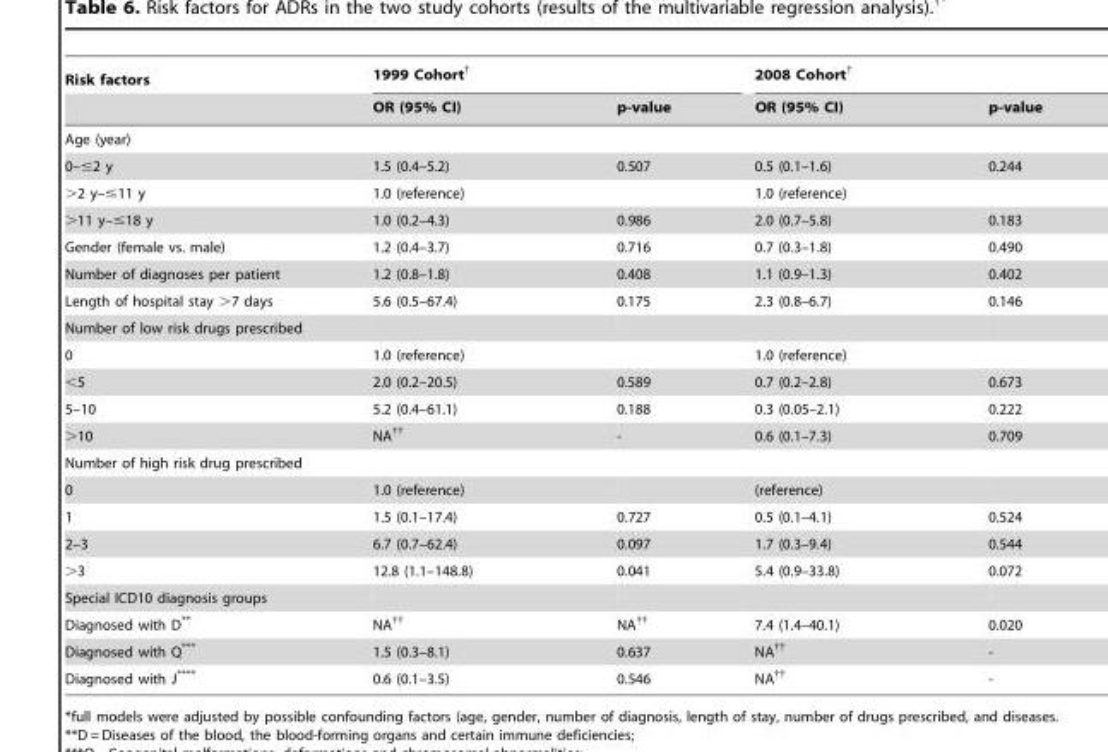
<table><thead><tr><td rowspan="2">Risk factors</td><td colspan="2">1999 Cohort†</td><td colspan="2">2008 Cohort†</td></tr><tr><td>OR (95% CI)</td><td>p-value</td><td>OR (95% CI)</td><td>p-value</td></tr></thead><tbody><tr><td colspan="5">Age (year)</td></tr><tr><td>0–≤2 y</td><td>1.5 (0.4–5.2)</td><td>0.507</td><td>0.5 (0.1–1.6)</td><td>0.244</td></tr><tr><td>&gt;2 y–≤11 y</td><td>1.0 (reference)</td><td></td><td>1.0 (reference)</td><td></td></tr><tr><td>&gt;11 y–≤18 y</td><td>1.0 (0.2–4.3)</td><td>0.986</td><td>2.0 (0.7–5.8)</td><td>0.183</td></tr><tr><td>Gender (female vs. male)</td><td>1.2 (0.4–3.7)</td><td>0.716</td><td>0.7 (0.3–1.8)</td><td>0.490</td></tr><tr><td>Number of diagnoses per patient</td><td>1.2 (0.8–1.8)</td><td>0.408</td><td>1.1 (0.9–1.3)</td><td>0.402</td></tr><tr><td>Length of hospital stay &gt;7 days</td><td>5.6 (0.5–67.4)</td><td>0.175</td><td>2.3 (0.8–6.7)</td><td>0.146</td></tr><tr><td colspan="5">Number of low risk drugs prescribed</td></tr><tr><td>0</td><td>1.0 (reference)</td><td></td><td>1.0 (reference)</td><td></td></tr><tr><td>&lt;5</td><td>2.0 (0.2–20.5)</td><td>0.589</td><td>0.7 (0.2–2.8)</td><td>0.673</td></tr><tr><td>5–10</td><td>5.2 (0.4–61.1)</td><td>0.188</td><td>0.3 (0.05–2.1)</td><td>0.222</td></tr><tr><td>&gt;10</td><td>NA††</td><td>-</td><td>0.6 (0.1–7.3)</td><td>0.709</td></tr><tr><td colspan="5">Number of high risk drug prescribed</td></tr><tr><td>0</td><td>1.0 (reference)</td><td></td><td>(reference)</td><td></td></tr><tr><td>1</td><td>1.5 (0.1–17.4)</td><td>0.727</td><td>0.5 (0.1–4.1)</td><td>0.524</td></tr><tr><td>2–3</td><td>6.7 (0.7–62.4)</td><td>0.097</td><td>1.7 (0.3–9.4)</td><td>0.544</td></tr><tr><td>&gt;3</td><td>12.8 (1.1–148.8)</td><td>0.041</td><td>5.4 (0.9–33.8)</td><td>0.072</td></tr><tr><td colspan="5">Special ICD10 diagnosis groups</td></tr><tr><td>Diagnosed with D**</td><td>NA††</td><td>NA††</td><td>7.4 (1.4–40.1)</td><td>0.020</td></tr><tr><td>Diagnosed with Q***</td><td>1.5 (0.3–8.1)</td><td>0.637</td><td>NA††</td><td>-</td></tr><tr><td>Diagnosed with J****</td><td>0.6 (0.1–3.5)</td><td>0.546</td><td>NA††</td><td>-</td></tr></tbody></table>